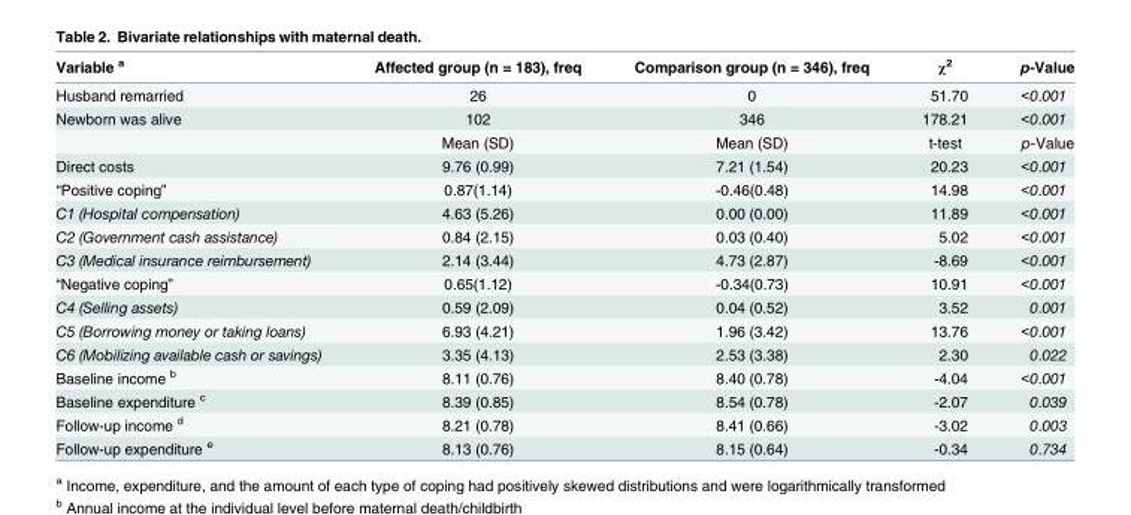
<table><thead><tr><td>Variable <sup>a</sup></td><td>Affected group (n = 183), freq</td><td>Comparison group (n = 346), freq</td><td>χ<sup>2</sup></td><td>p-Value</td></tr></thead><tbody><tr><td>Husband remarried</td><td>26</td><td>0</td><td>51.70</td><td>&lt;0.001</td></tr><tr><td rowspan="2">Newborn was alive</td><td>102</td><td>346</td><td>178.21</td><td>&lt;0.001</td></tr><tr><td>Mean (SD)</td><td>Mean (SD)</td><td>t-test</td><td>p-Value</td></tr><tr><td>Direct costs</td><td>9.76 (0.99)</td><td>7.21 (1.54)</td><td>20.23</td><td>&lt;0.001</td></tr><tr><td>“Positive coping”</td><td>0.87(1.14)</td><td>-0.46(0.48)</td><td>14.98</td><td>&lt;0.001</td></tr><tr><td>C1 (Hospital compensation)</td><td>4.63 (5.26)</td><td>0.00 (0.00)</td><td>11.89</td><td>&lt;0.001</td></tr><tr><td>C2 (Government cash assistance)</td><td>0.84 (2.15)</td><td>0.03 (0.40)</td><td>5.02</td><td>&lt;0.001</td></tr><tr><td>C3 (Medical insurance reimbursement)</td><td>2.14 (3.44)</td><td>4.73 (2.87)</td><td>-8.69</td><td>&lt;0.001</td></tr><tr><td>“Negative coping”</td><td>0.65(1.12)</td><td>-0.34(0.73)</td><td>10.91</td><td>&lt;0.001</td></tr><tr><td>C4 (Selling assets)</td><td>0.59 (2.09)</td><td>0.04 (0.52)</td><td>3.52</td><td>0.001</td></tr><tr><td>C5 (Borrowing money or taking loans)</td><td>6.93 (4.21)</td><td>1.96 (3.42)</td><td>13.76</td><td>&lt;0.001</td></tr><tr><td>C6 (Mobilizing available cash or savings)</td><td>3.35 (4.13)</td><td>2.53 (3.38)</td><td>2.30</td><td>0.022</td></tr><tr><td>Baseline income <sup>b</sup></td><td>8.11 (0.76)</td><td>8.40 (0.78)</td><td>-4.04</td><td>&lt;0.001</td></tr><tr><td>Baseline expenditure <sup>c</sup></td><td>8.39 (0.85)</td><td>8.54 (0.78)</td><td>-2.07</td><td>0.039</td></tr><tr><td>Follow-up income <sup>d</sup></td><td>8.21 (0.78)</td><td>8.41 (0.66)</td><td>-3.02</td><td>0.003</td></tr><tr><td>Follow-up expenditure <sup>e</sup></td><td>8.13 (0.76)</td><td>8.15 (0.64)</td><td>-0.34</td><td>0.734</td></tr></tbody></table>